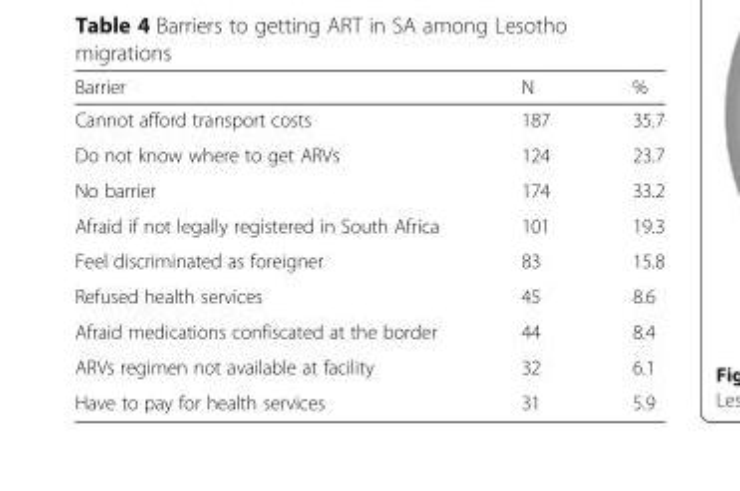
<table><thead><tr><td>Barrier</td><td>N</td><td>%</td></tr></thead><tbody><tr><td>Cannot afford transport costs</td><td>187</td><td>35.7</td></tr><tr><td>Do not know where to get ARVs</td><td>124</td><td>23.7</td></tr><tr><td>No barrier</td><td>174</td><td>33.2</td></tr><tr><td>Afraid if not legally registered in South Africa</td><td>101</td><td>19.3</td></tr><tr><td>Feel discriminated as foreigner</td><td>83</td><td>15.8</td></tr><tr><td>Refused health services</td><td>45</td><td>8.6</td></tr><tr><td>Afraid medications confiscated at the border</td><td>44</td><td>8.4</td></tr><tr><td>ARVs regimen not available at facility</td><td>32</td><td>6.1</td></tr><tr><td>Have to pay for health services</td><td>31</td><td>5.9</td></tr></tbody></table>